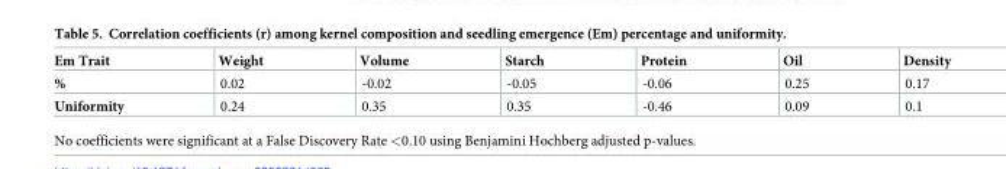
<table><thead><tr><td>Em Trait</td><td>Weight</td><td>Volume</td><td>Starch</td><td>Protein</td><td>Oil</td><td>Density</td></tr></thead><tbody><tr><td>%</td><td>0.02</td><td>-0.02</td><td>-0.05</td><td>-0.06</td><td>0.25</td><td>0.17</td></tr><tr><td>Uniformity</td><td>0.24</td><td>0.35</td><td>0.35</td><td>-0.46</td><td>0.09</td><td>0.1</td></tr></tbody></table>